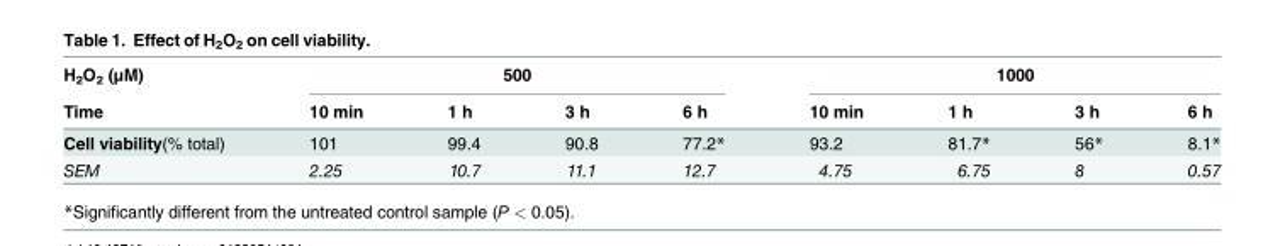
<table><thead><tr><td rowspan="2">H<sub>2</sub>O<sub>2</sub> (μM) Time</td><td colspan="4">500</td><td colspan="4">1000</td></tr><tr><td>10 min</td><td>1 h</td><td>3 h</td><td>6 h</td><td>10 min</td><td>1 h</td><td>3 h</td><td>6 h</td></tr></thead><tbody><tr><td>Cell viability(% total)</td><td>101</td><td>99.4</td><td>90.8</td><td>77.2*</td><td>93.2</td><td>81.7*</td><td>56*</td><td>8.1*</td></tr><tr><td>SEM</td><td>2.25</td><td>10.7</td><td>11.1</td><td>12.7</td><td>4.75</td><td>6.75</td><td>8</td><td>0.57</td></tr></tbody></table>